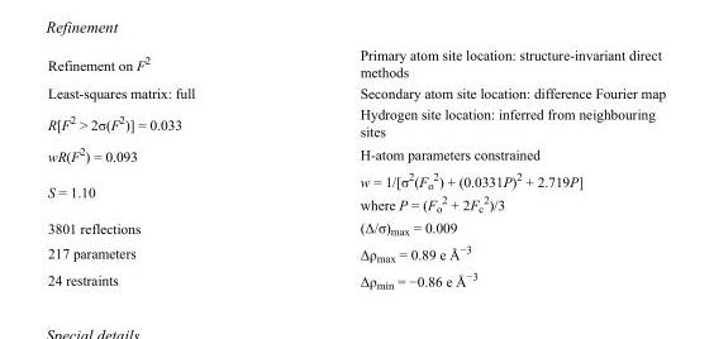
<table><tbody><tr><td>Refinement on F<sup>2</sup></td><td>Primary atom site location: structure-invariant direct methods</td></tr><tr><td>Least-squares matrix: full</td><td>Secondary atom site location: difference Fourier map</td></tr><tr><td>R[F<sup>2</sup> &gt; 2σ(F<sup>2</sup>)] = 0.033</td><td>Hydrogen site location: inferred from neighbouring sites</td></tr><tr><td>wR(F<sup>2</sup>) = 0.093</td><td>H-atom parameters constrained</td></tr><tr><td>S = 1.10</td><td>w = 1/[σ<sup>2</sup>(F<sub>o</sub> <sup>2</sup>) + (0.0331P)<sup>2</sup> + 2.719P] where P = (F<sub>o</sub> <sup>2</sup> + 2F<sub>c</sub> <sup>2</sup>)/3</td></tr><tr><td>3801 reflections</td><td>(Δ/σ)<sub>max</sub> = 0.009</td></tr><tr><td>217 parameters</td><td>Δρ<sub>max</sub> = 0.89 e Å<sup>−3</sup></td></tr><tr><td>24 restraints</td><td>Δρ<sub>min</sub> = −0.86 e Å<sup>−3</sup></td></tr></tbody></table>